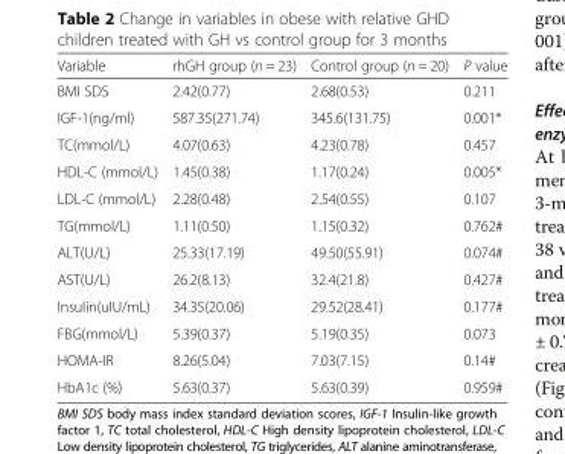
<table><thead><tr><td>Variable</td><td>rhGH group (n = 23)</td><td>Control group (n = 20)</td><td>P value</td></tr></thead><tbody><tr><td>BMI SDS</td><td>2.42(0.77)</td><td>2.68(0.53)</td><td>0.211</td></tr><tr><td>IGF-1(ng/ml)</td><td>587.35(271.74)</td><td>345.6(131.75)</td><td>0.001*</td></tr><tr><td>TC(mmol/L)</td><td>4.07(0.63)</td><td>4.23(0.78)</td><td>0.457</td></tr><tr><td>HDL-C (mmol/L)</td><td>1.45(0.38)</td><td>1.17(0.24)</td><td>0.005*</td></tr><tr><td>LDL-C (mmol/L)</td><td>2.28(0.48)</td><td>2.54(0.55)</td><td>0.107</td></tr><tr><td>TG(mmol/L)</td><td>1.11(0.50)</td><td>1.15(0.32)</td><td>0.762#</td></tr><tr><td>ALT(U/L)</td><td>25.33(17.19)</td><td>49.50(55.91)</td><td>0.074#</td></tr><tr><td>AST(U/L)</td><td>26.2(8.13)</td><td>32.4(21.8)</td><td>0.427#</td></tr><tr><td>Insulin(uIU/mL)</td><td>34.35(20.06)</td><td>29.52(28.41)</td><td>0.177#</td></tr><tr><td>FBG(mmol/L)</td><td>5.39(0.37)</td><td>5.19(0.35)</td><td>0.073</td></tr><tr><td>HOMA-IR</td><td>8.26(5.04)</td><td>7.03(7.15)</td><td>0.14#</td></tr><tr><td>HbA1c (%)</td><td>5.63(0.37)</td><td>5.63(0.39)</td><td>0.959#</td></tr></tbody></table>